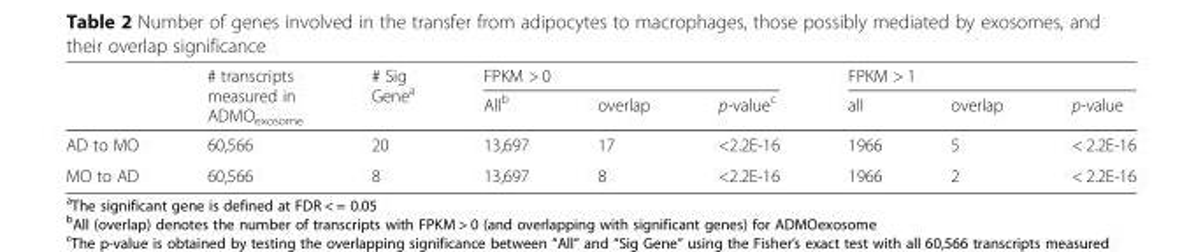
<table><thead><tr><td rowspan="2"></td><td rowspan="2"># transcripts measured in ADMO<sub>exosome</sub></td><td rowspan="2"># Sig Gene<sup>a</sup></td><td colspan="3">FPKM &gt; 0</td><td colspan="3">FPKM &gt; 1</td></tr><tr><td>All<sup>b</sup></td><td>overlap</td><td>p-value<sup>c</sup></td><td>all</td><td>overlap</td><td>p-value</td></tr></thead><tbody><tr><td>AD to MO</td><td>60,566</td><td>20</td><td>13,697</td><td>17</td><td>&lt;2.2E-16</td><td>1966</td><td>5</td><td>&lt; 2.2E-16</td></tr><tr><td>MO to AD</td><td>60,566</td><td>8</td><td>13,697</td><td>8</td><td>&lt;2.2E-16</td><td>1966</td><td>2</td><td>&lt; 2.2E-16</td></tr></tbody></table>